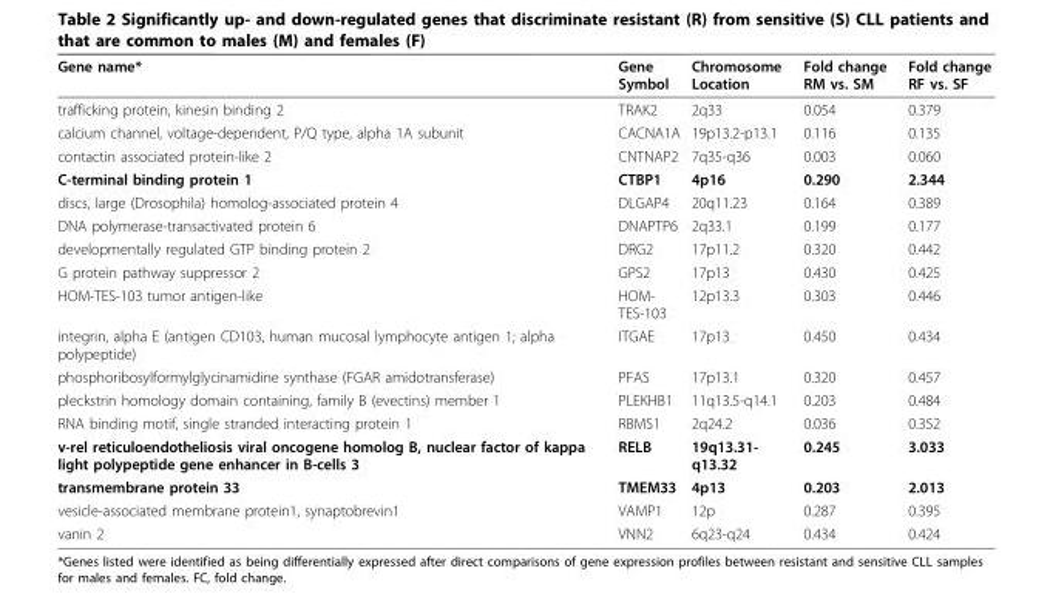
<table><thead><tr><td>Gene name*</td><td>Gene Symbol</td><td>Chromosome Location</td><td>Fold change RM vs. SM</td><td>Fold change RF vs. SF</td></tr></thead><tbody><tr><td>trafficking protein, kinesin binding 2</td><td>TRAK2</td><td>2q33</td><td>0.054</td><td>0.379</td></tr><tr><td>calcium channel, voltage-dependent, P/Q type, alpha 1A subunit</td><td>CACNA1A</td><td>19p13.2-p13.1</td><td>0.116</td><td>0.135</td></tr><tr><td>contactin associated protein-like 2</td><td>CNTNAP2</td><td>7q35-q36</td><td>0.003</td><td>0.060</td></tr><tr><td>C-terminal binding protein 1</td><td>CTBP1</td><td>4p16</td><td>0.290</td><td>2.344</td></tr><tr><td>discs, large (Drosophila) homolog-associated protein 4</td><td>DLGAP4</td><td>20q11.23</td><td>0.164</td><td>0.389</td></tr><tr><td>DNA polymerase-transactivated protein 6</td><td>DNAPTP6</td><td>2q33.1</td><td>0.199</td><td>0.177</td></tr><tr><td>developmentally regulated GTP binding protein 2</td><td>DRG2</td><td>17p11.2</td><td>0.320</td><td>0.442</td></tr><tr><td>G protein pathway suppressor 2</td><td>GPS2</td><td>17p13</td><td>0.430</td><td>0.425</td></tr><tr><td>HOM-TES-103 tumor antigen-like</td><td>HOM- TES-103</td><td>12p13.3</td><td>0.303</td><td>0.446</td></tr><tr><td>integrin, alpha E (antigen CD103, human mucosal lymphocyte antigen 1; alpha polypeptide)</td><td>ITGAE</td><td>17p13</td><td>0.450</td><td>0.434</td></tr><tr><td>phosphoribosylformylglycinamidine synthase (FGAR amidotransferase)</td><td>PFAS</td><td>17p13.1</td><td>0.320</td><td>0.457</td></tr><tr><td>pleckstrin homology domain containing, family B (evectins) member 1</td><td>PLEKHB1</td><td>11q13.5-q14.1</td><td>0.203</td><td>0.484</td></tr><tr><td>RNA binding motif, single stranded interacting protein 1</td><td>RBMS1</td><td>2q24.2</td><td>0.036</td><td>0.352</td></tr><tr><td>v-rel reticuloendotheliosis viral oncogene homolog B, nuclear factor of kappa light polypeptide gene enhancer in B-cells 3</td><td>RELB</td><td>19q13.31- q13.32</td><td>0.245</td><td>3.033</td></tr><tr><td>transmembrane protein 33</td><td>TMEM33</td><td>4p13</td><td>0.203</td><td>2.013</td></tr><tr><td>vesicle-associated membrane protein1, synaptobrevin1</td><td>VAMP1</td><td>12p</td><td>0.287</td><td>0.395</td></tr><tr><td>vanin 2</td><td>VNN2</td><td>6q23-q24</td><td>0.434</td><td>0.424</td></tr></tbody></table>